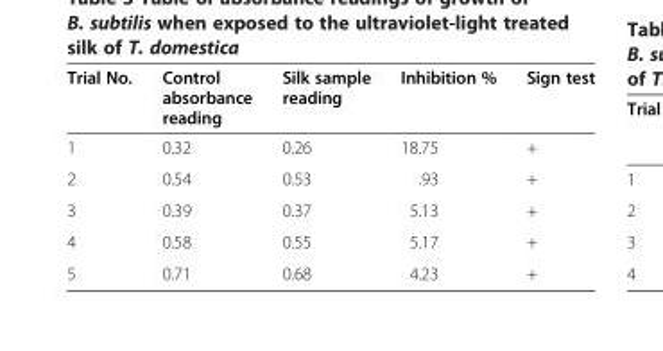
<table><thead><tr><td>Trial No.</td><td>Control absorbance reading</td><td>Silk sample reading</td><td>Inhibition %</td><td>Sign test</td></tr></thead><tbody><tr><td>1</td><td>0.32</td><td>0.26</td><td>18.75</td><td>+</td></tr><tr><td>2</td><td>0.54</td><td>0.53</td><td>.93</td><td>+</td></tr><tr><td>3</td><td>0.39</td><td>0.37</td><td>5.13</td><td>+</td></tr><tr><td>4</td><td>0.58</td><td>0.55</td><td>5.17</td><td>+</td></tr><tr><td>5</td><td>0.71</td><td>0.68</td><td>4.23</td><td>+</td></tr></tbody></table>